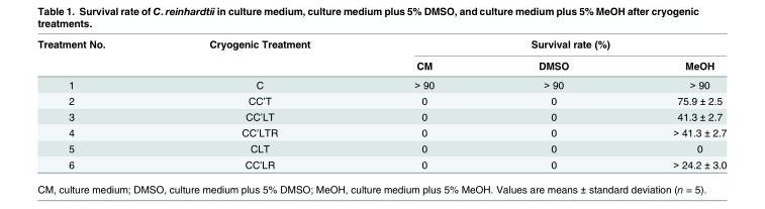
<table><thead><tr><td rowspan="2">Treatment No.</td><td rowspan="2">Cryogenic Treatment</td><td colspan="3">Survival rate (%)</td></tr><tr><td>CM</td><td>DMSO</td><td>MeOH</td></tr></thead><tbody><tr><td>1</td><td>C</td><td>&gt; 90</td><td>&gt; 90</td><td>&gt; 90</td></tr><tr><td>2</td><td>CC’T</td><td>0</td><td>0</td><td>75.9 ± 2.5</td></tr><tr><td>3</td><td>CC’LT</td><td>0</td><td>0</td><td>41.3 ± 2.7</td></tr><tr><td>4</td><td>CC’LTR</td><td>0</td><td>0</td><td>&gt; 41.3 ± 2.7</td></tr><tr><td>5</td><td>CLT</td><td>0</td><td>0</td><td>0</td></tr><tr><td>6</td><td>CC’LR</td><td>0</td><td>0</td><td>&gt; 24.2 ± 3.0</td></tr></tbody></table>